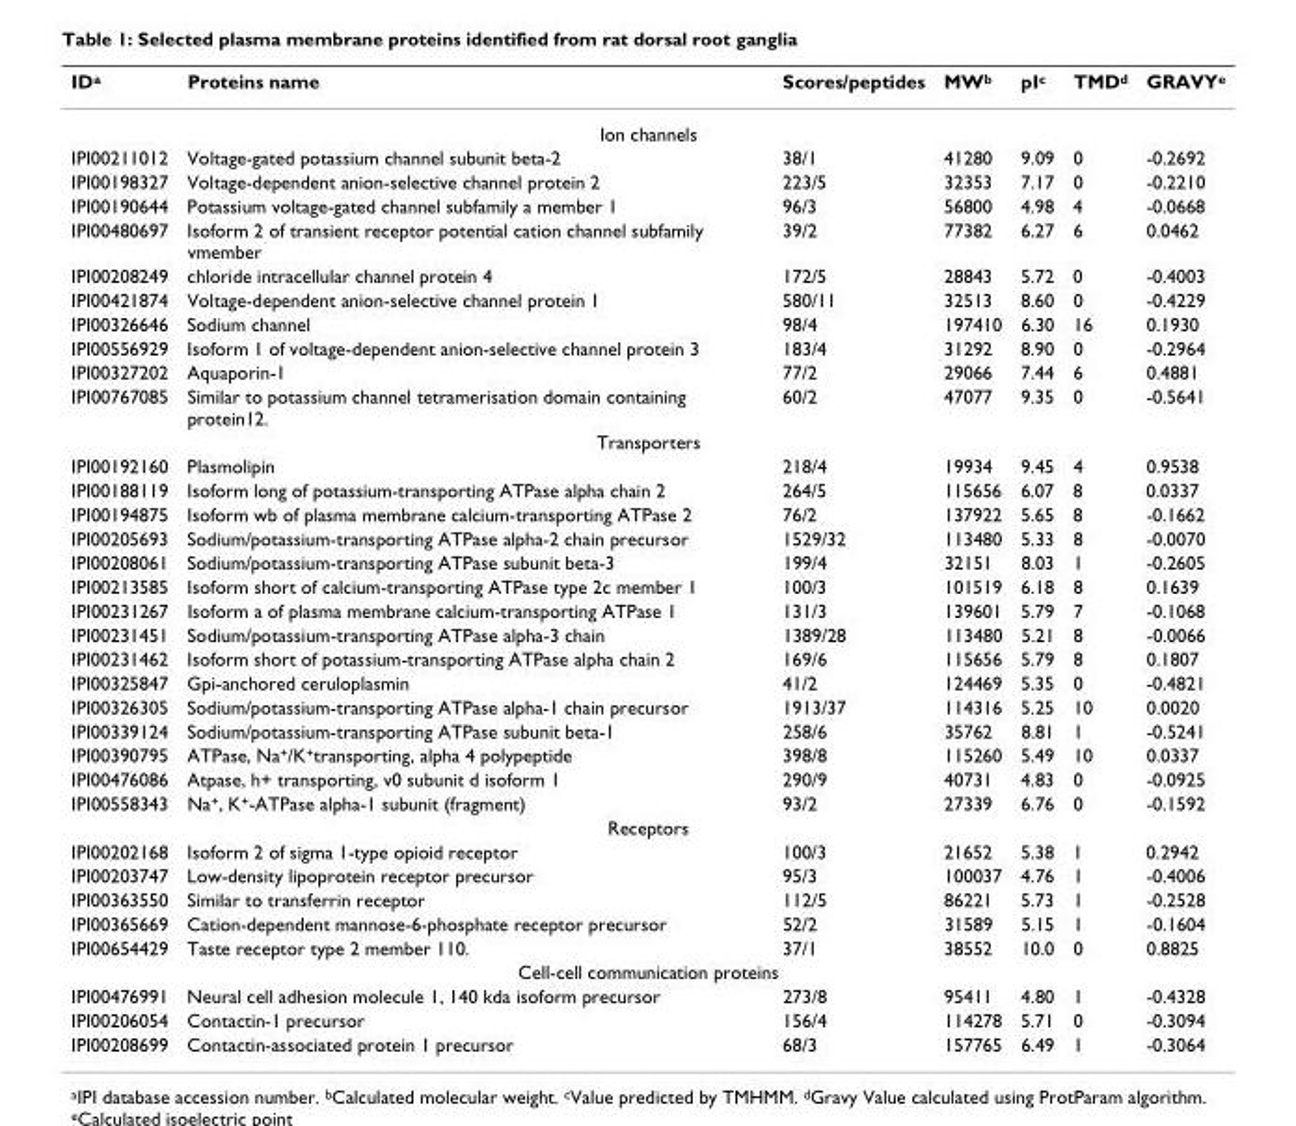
<table><thead><tr><td>ID<sup>a</sup></td><td>Proteins name</td><td>Scores/peptides</td><td>MW<sup>b</sup></td><td>pI<sup>c</sup></td><td>TMD<sup>d</sup></td><td>GRAVY<sup>e</sup></td></tr></thead><tbody><tr><td colspan="7">Ion channels</td></tr><tr><td>IPI00211012</td><td>Voltage-gated potassium channel subunit beta-2</td><td>38/1</td><td>41280</td><td>9.09</td><td>0</td><td>-0.2692</td></tr><tr><td>IPI00198327</td><td>Voltage-dependent anion-selective channel protein 2</td><td>223/5</td><td>32353</td><td>7.17</td><td>0</td><td>-0.2210</td></tr><tr><td>IPI00190644</td><td>Potassium voltage-gated channel subfamily a member 1</td><td>96/3</td><td>56800</td><td>4.98</td><td>4</td><td>-0.0668</td></tr><tr><td>IPI00480697</td><td>Isoform 2 of transient receptor potential cation channel subfamily vmember</td><td>39/2</td><td>77382</td><td>6.27</td><td>6</td><td>0.0462</td></tr><tr><td>IPI00208249</td><td>chloride intracellular channel protein 4</td><td>172/5</td><td>28843</td><td>5.72</td><td>0</td><td>-0.4003</td></tr><tr><td>IPI00421874</td><td>Voltage-dependent anion-selective channel protein 1</td><td>580/11</td><td>32513</td><td>8.60</td><td>0</td><td>-0.4229</td></tr><tr><td>IPI00326646</td><td>Sodium channel</td><td>98/4</td><td>197410</td><td>6.30</td><td>16</td><td>0.1930</td></tr><tr><td>IPI00556929</td><td>Isoform 1 of voltage-dependent anion-selective channel protein 3</td><td>183/4</td><td>31292</td><td>8.90</td><td>0</td><td>-0.2964</td></tr><tr><td>IPI00327202</td><td>Aquaporin-1</td><td>77/2</td><td>29066</td><td>7.44</td><td>6</td><td>0.4881</td></tr><tr><td>IPI00767085</td><td>Similar to potassium channel tetramerisation domain containing protein12.</td><td>60/2</td><td>47077</td><td>9.35</td><td>0</td><td>-0.5641</td></tr><tr><td colspan="7">Transporters</td></tr><tr><td>IPI00192160</td><td>Plasmolipin</td><td>218/4</td><td>19934</td><td>9.45</td><td>4</td><td>0.9538</td></tr><tr><td>IPI00188119</td><td>Isoform long of potassium-transporting ATPase alpha chain 2</td><td>264/5</td><td>115656</td><td>6.07</td><td>8</td><td>0.0337</td></tr><tr><td>IPI00194875</td><td>Isoform wb of plasma membrane calcium-transporting ATPase 2</td><td>76/2</td><td>137922</td><td>5.65</td><td>8</td><td>-0.1662</td></tr><tr><td>IPI00205693</td><td>Sodium/potassium-transporting ATPase alpha-2 chain precursor</td><td>1529/32</td><td>113480</td><td>5.33</td><td>8</td><td>-0.0070</td></tr><tr><td>IPI00208061</td><td>Sodium/potassium-transporting ATPase subunit beta-3</td><td>199/4</td><td>32151</td><td>8.03</td><td>1</td><td>-0.2605</td></tr><tr><td>IPI00213585</td><td>Isoform short of calcium-transporting ATPase type 2c member 1</td><td>100/3</td><td>101519</td><td>6.18</td><td>8</td><td>0.1639</td></tr><tr><td>IPI00231267</td><td>Isoform a of plasma membrane calcium-transporting ATPase 1</td><td>131/3</td><td>139601</td><td>5.79</td><td>7</td><td>-0.1068</td></tr><tr><td>IPI00231451</td><td>Sodium/potassium-transporting ATPase alpha-3 chain</td><td>1389/28</td><td>113480</td><td>5.21</td><td>8</td><td>-0.0066</td></tr><tr><td>IPI00231462</td><td>Isoform short of potassium-transporting ATPase alpha chain 2</td><td>169/6</td><td>115656</td><td>5.79</td><td>8</td><td>0.1807</td></tr><tr><td>IPI00325847</td><td>Gpi-anchored ceruloplasmin</td><td>41/2</td><td>124469</td><td>5.35</td><td>0</td><td>-0.4821</td></tr><tr><td>IPI00326305</td><td>Sodium/potassium-transporting ATPase alpha-1 chain precursor</td><td>1913/37</td><td>114316</td><td>5.25</td><td>10</td><td>0.0020</td></tr><tr><td>IPI00339124</td><td>Sodium/potassium-transporting ATPase subunit beta-1</td><td>258/6</td><td>35762</td><td>8.81</td><td>1</td><td>-0.5241</td></tr><tr><td>IPI00390795</td><td>ATPase, Na<sup>+</sup>/K<sup>+</sup>transporting, alpha 4 polypeptide</td><td>398/8</td><td>115260</td><td>5.49</td><td>10</td><td>0.0337</td></tr><tr><td>IPI00476086</td><td>Atpase, h+ transporting, v0 subunit d isoform 1</td><td>290/9</td><td>40731</td><td>4.83</td><td>0</td><td>-0.0925</td></tr><tr><td>IPI00558343</td><td>Na<sup>+</sup>, K<sup>+</sup>-ATPase alpha-1 subunit (fragment)</td><td>93/2</td><td>27339</td><td>6.76</td><td>0</td><td>-0.1592</td></tr><tr><td colspan="7">Receptors</td></tr><tr><td>IPI00202168</td><td>Isoform 2 of sigma 1-type opioid receptor</td><td>100/3</td><td>21652</td><td>5.38</td><td>1</td><td>0.2942</td></tr><tr><td>IPI00203747</td><td>Low-density lipoprotein receptor precursor</td><td>95/3</td><td>100037</td><td>4.76</td><td>1</td><td>-0.4006</td></tr><tr><td>IPI00363550</td><td>Similar to transferrin receptor</td><td>112/5</td><td>86221</td><td>5.73</td><td>1</td><td>-0.2528</td></tr><tr><td>IPI00365669</td><td>Cation-dependent mannose-6-phosphate receptor precursor</td><td>52/2</td><td>31589</td><td>5.15</td><td>1</td><td>-0.1604</td></tr><tr><td>IPI00654429</td><td>Taste receptor type 2 member 110.</td><td>37/1</td><td>38552</td><td>10.0</td><td>0</td><td>0.8825</td></tr><tr><td colspan="7">Cell-cell communication proteins</td></tr><tr><td>IPI00476991</td><td>Neural cell adhesion molecule 1, 140 kda isoform precursor</td><td>273/8</td><td>95411</td><td>4.80</td><td>1</td><td>-0.4328</td></tr><tr><td>IPI00206054</td><td>Contactin-1 precursor</td><td>156/4</td><td>114278</td><td>5.71</td><td>0</td><td>-0.3094</td></tr><tr><td>IPI00208699</td><td>Contactin-associated protein 1 precursor</td><td>68/3</td><td>157765</td><td>6.49</td><td>1</td><td>-0.3064</td></tr></tbody></table>